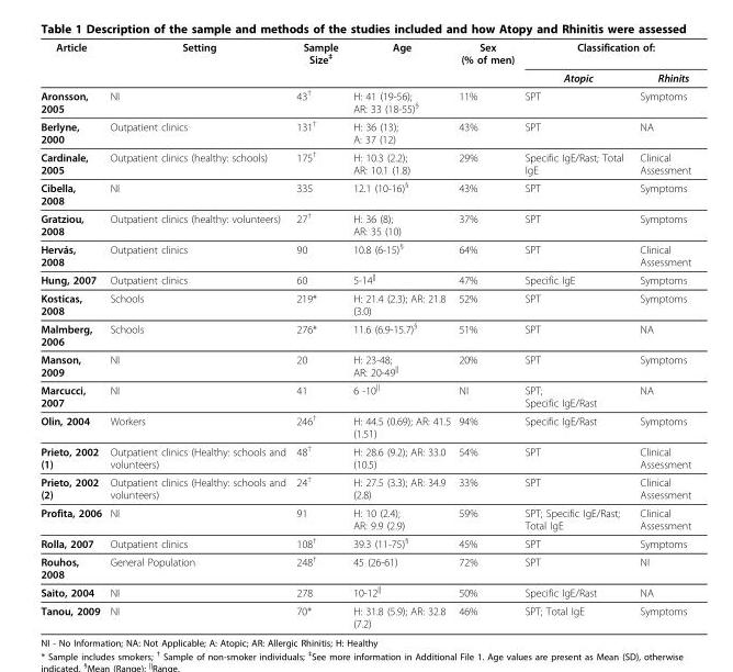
<table><thead><tr><td rowspan="2">Article</td><td rowspan="2">Setting</td><td rowspan="2">Sample Size<sup>‡</sup></td><td rowspan="2">Age</td><td rowspan="2">Sex (% of men)</td><td colspan="2">Classification of:</td></tr><tr><td>Atopic</td><td>Rhinits</td></tr></thead><tbody><tr><td>Aronsson, 2005</td><td>NI</td><td>43<sup>†</sup></td><td>H: 41 (19-56); AR: 33 (18-55)<sup>§</sup></td><td>11%</td><td>SPT</td><td>Symptoms</td></tr><tr><td>Berlyne, 2000</td><td>Outpatient clinics</td><td>131<sup>†</sup></td><td>H: 36 (13); A: 37 (12)</td><td>43%</td><td>SPT</td><td>NA</td></tr><tr><td>Cardinale, 2005</td><td>Outpatient clinics (healthy: schools)</td><td>175<sup>†</sup></td><td>H: 10.3 (2.2); AR: 10.1 (1.8)</td><td>29%</td><td>Specific IgE/Rast; Total IgE</td><td>Clinical Assessment</td></tr><tr><td>Cibella, 2008</td><td>NI</td><td>335</td><td>12.1 (10-16)<sup>§</sup></td><td>43%</td><td>SPT</td><td>Symptoms</td></tr><tr><td>Gratziou, 2008</td><td>Outpatient clinics (healthy: volunteers)</td><td>27<sup>†</sup></td><td>H: 36 (8); AR: 35 (10)</td><td>37%</td><td>SPT</td><td>Symptoms</td></tr><tr><td>Hervás, 2008</td><td>Outpatient clinics</td><td>90</td><td>10.8 (6-15)<sup>§</sup></td><td>64%</td><td>SPT</td><td>Clinical Assessment</td></tr><tr><td>Hung, 2007</td><td>Outpatient clinics</td><td>60</td><td>5-14<sup>||</sup></td><td>47%</td><td>Specific IgE</td><td>Symptoms</td></tr><tr><td>Kosticas, 2008</td><td>Schools</td><td>219*</td><td>H: 21.4 (2.3); AR: 21.8 (3.0)</td><td>52%</td><td>SPT</td><td>Symptoms</td></tr><tr><td>Malmberg, 2006</td><td>Schools</td><td>276*</td><td>11.6 (6.9-15.7)<sup>§</sup></td><td>51%</td><td>SPT</td><td>NA</td></tr><tr><td>Manson, 2009</td><td>NI</td><td>20</td><td>H: 23-48; AR: 20-49<sup>||</sup></td><td>20%</td><td>SPT</td><td>Symptoms</td></tr><tr><td>Marcucci, 2007</td><td>NI</td><td>41</td><td>6 -10<sup>||</sup></td><td>NI</td><td>SPT; Specific IgE/Rast</td><td>NA</td></tr><tr><td>Olin, 2004</td><td>Workers</td><td>246<sup>†</sup></td><td>H: 44.5 (0.69); AR: 41.5 (1.51)</td><td>94%</td><td>Specific IgE/Rast</td><td>Symptoms</td></tr><tr><td>Prieto, 2002 (1)</td><td>Outpatient clinics (Healthy: schools and volunteers)</td><td>48<sup>†</sup></td><td>H: 28.6 (9.2); AR: 33.0 (10.5)</td><td>54%</td><td>SPT</td><td>Clinical Assessment</td></tr><tr><td>Prieto, 2002 (2)</td><td>Outpatient clinics (Healthy: schools and volunteers)</td><td>24<sup>†</sup></td><td>H: 27.5 (3.3); AR: 34.9 (2.8)</td><td>33%</td><td>SPT</td><td>Clinical Assessment</td></tr><tr><td>Profita, 2006</td><td>NI</td><td>91</td><td>H: 10 (2.4); AR: 9.9 (2.9)</td><td>59%</td><td>SPT; Specific IgE/Rast; Total IgE</td><td>Clinical Assessment</td></tr><tr><td>Rolla, 2007</td><td>Outpatient clinics</td><td>108<sup>†</sup></td><td>39.3 (11-75)<sup>§</sup></td><td>45%</td><td>SPT</td><td>Symptoms</td></tr><tr><td>Rouhos, 2008</td><td>General Population</td><td>248<sup>†</sup></td><td>45 (26-61)</td><td>72%</td><td>SPT</td><td>NI</td></tr><tr><td>Saito, 2004</td><td>NI</td><td>278</td><td>10-12<sup>||</sup></td><td>50%</td><td>Specific IgE/Rast</td><td>NA</td></tr><tr><td>Tanou, 2009</td><td>NI</td><td>70*</td><td>H: 31.8 (5.9); AR: 32.8 (7.2)</td><td>46%</td><td>SPT; Total IgE</td><td>Symptoms</td></tr></tbody></table>